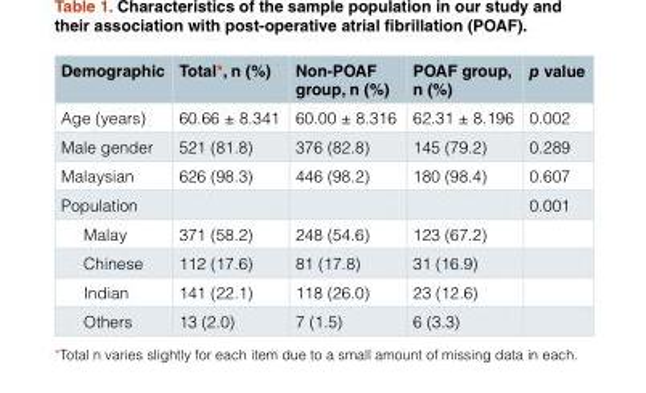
<table><thead><tr><td>Demographic</td><td>Total*, n (%)</td><td>Non-POAF group, n (%)</td><td>POAF group, n (%)</td><td>p value</td></tr></thead><tbody><tr><td>Age (years)</td><td>60.66 ± 8.341</td><td>60.00 ± 8.316</td><td>62.31 ± 8.196</td><td>0.002</td></tr><tr><td>Male gender</td><td>521 (81.8)</td><td>376 (82.8)</td><td>145 (79.2)</td><td>0.289</td></tr><tr><td>Malaysian</td><td>626 (98.3)</td><td>446 (98.2)</td><td>180 (98.4)</td><td>0.607</td></tr><tr><td>Population</td><td></td><td></td><td></td><td>0.001</td></tr><tr><td>Malay</td><td>371 (58.2)</td><td>248 (54.6)</td><td>123 (67.2)</td><td></td></tr><tr><td>Chinese</td><td>112 (17.6)</td><td>81 (17.8)</td><td>31 (16.9)</td><td></td></tr><tr><td>Indian</td><td>141 (22.1)</td><td>118 (26.0)</td><td>23 (12.6)</td><td></td></tr><tr><td>Others</td><td>13 (2.0)</td><td>7 (1.5)</td><td>6 (3.3)</td><td></td></tr></tbody></table>